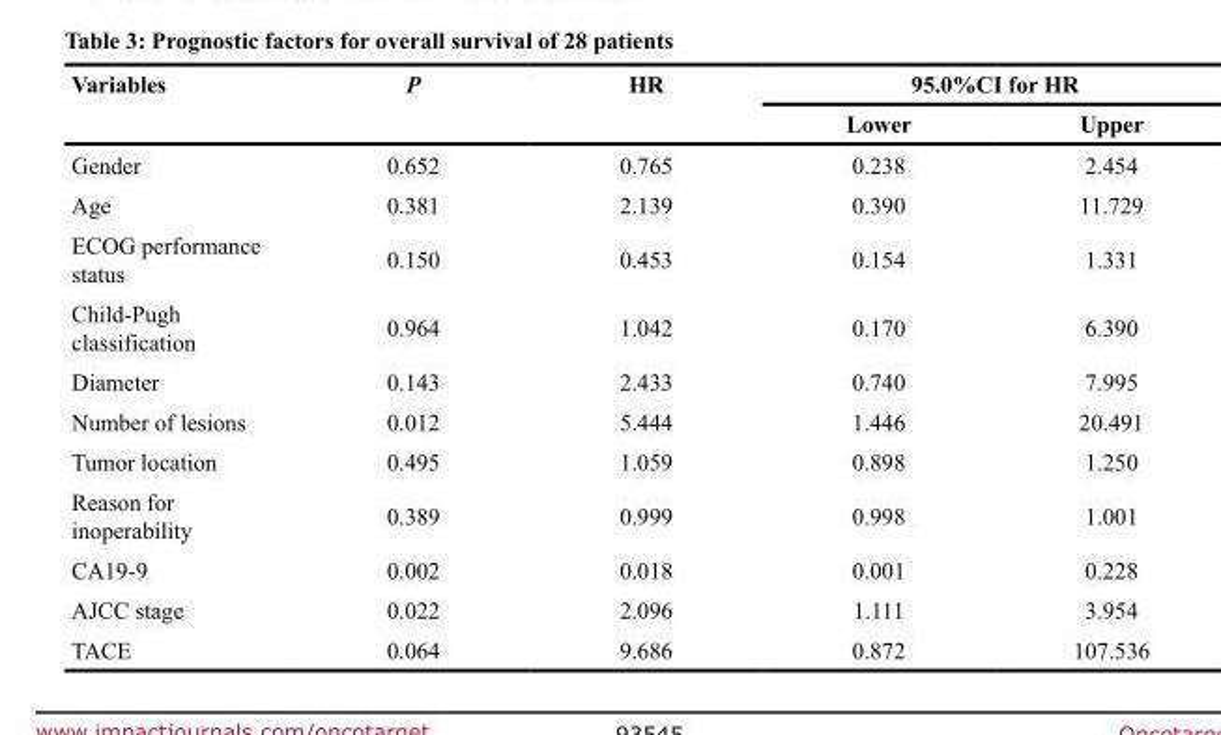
<table><thead><tr><td rowspan="2">Variables</td><td rowspan="2">P</td><td rowspan="2">HR</td><td colspan="2">95.0%CI for HR</td></tr><tr><td>Lower</td><td>Upper</td></tr></thead><tbody><tr><td>Gender</td><td>0.652</td><td>0.765</td><td>0.238</td><td>2.454</td></tr><tr><td>Age</td><td>0.381</td><td>2.139</td><td>0.390</td><td>11.729</td></tr><tr><td>ECOG performance status</td><td>0.150</td><td>0.453</td><td>0.154</td><td>1.331</td></tr><tr><td>Child-Pugh classification</td><td>0.964</td><td>1.042</td><td>0.170</td><td>6.390</td></tr><tr><td>Diameter</td><td>0.143</td><td>2.433</td><td>0.740</td><td>7.995</td></tr><tr><td>Number of lesions</td><td>0.012</td><td>5.444</td><td>1.446</td><td>20.491</td></tr><tr><td>Tumor location</td><td>0.495</td><td>1.059</td><td>0.898</td><td>1.250</td></tr><tr><td>Reason for inoperability</td><td>0.389</td><td>0.999</td><td>0.998</td><td>1.001</td></tr><tr><td>CA19-9</td><td>0.002</td><td>0.018</td><td>0.001</td><td>0.228</td></tr><tr><td>AJCC stage</td><td>0.022</td><td>2.096</td><td>1.111</td><td>3.954</td></tr><tr><td>TACE</td><td>0.064</td><td>9.686</td><td>0.872</td><td>107.536</td></tr></tbody></table>